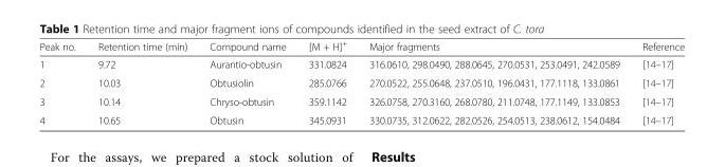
<table><thead><tr><td>Peak no.</td><td>Retention time (min)</td><td>Compound name</td><td>[M + H]<sup>+</sup></td><td>Major fragments</td><td>Reference</td></tr></thead><tbody><tr><td>1</td><td>9.72</td><td>Aurantio-obtusin</td><td>331.0824</td><td>316.0610, 298.0490, 288.0645, 270.0531, 253.0491, 242.0589</td><td>[14–17]</td></tr><tr><td>2</td><td>10.03</td><td>Obtusiolin</td><td>285.0766</td><td>270.0522, 255.0648, 237.0510, 196.0431, 177.1118, 133.0861</td><td>[14–17]</td></tr><tr><td>3</td><td>10.14</td><td>Chryso-obtusin</td><td>359.1142</td><td>326.0758, 270.3160, 268.0780, 211.0748, 177.1149, 133.0853</td><td>[14–17]</td></tr><tr><td>4</td><td>10.65</td><td>Obtusin</td><td>345.0931</td><td>330.0735, 312.0622, 282.0526, 254.0513, 238.0612, 154.0484</td><td>[14–17]</td></tr></tbody></table>